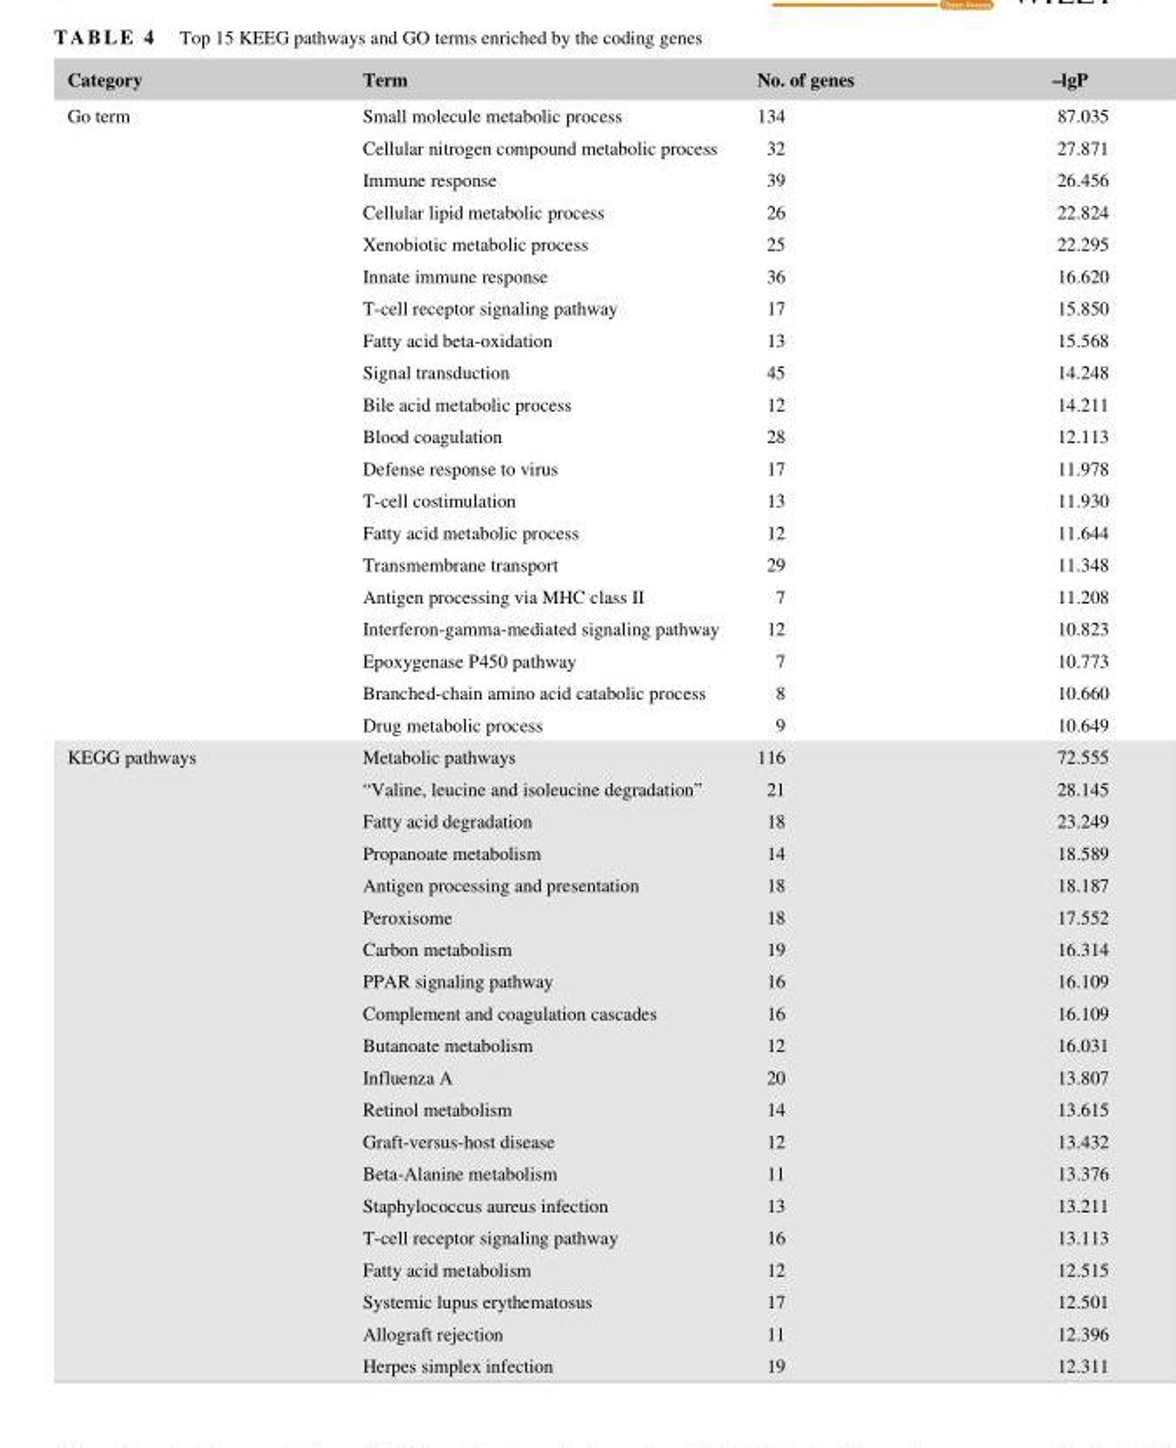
<table><thead><tr><td>Category</td><td>Term</td><td>No. of genes</td><td>– lgP</td></tr></thead><tbody><tr><td rowspan="20">Go term</td><td>Small molecule metabolic process</td><td>134</td><td>87.035</td></tr><tr><td>Cellular nitrogen compound metabolic process</td><td>32</td><td>27.871</td></tr><tr><td>Immune response</td><td>39</td><td>26.456</td></tr><tr><td>Cellular lipid metabolic process</td><td>26</td><td>22.824</td></tr><tr><td>Xenobiotic metabolic process</td><td>25</td><td>22.295</td></tr><tr><td>Innate immune response</td><td>36</td><td>16.620</td></tr><tr><td>T- cell receptor signaling pathway</td><td>17</td><td>15.850</td></tr><tr><td>Fatty acid beta- oxidation</td><td>13</td><td>15.568</td></tr><tr><td>Signal transduction</td><td>45</td><td>14.248</td></tr><tr><td>Bile acid metabolic process</td><td>12</td><td>14.211</td></tr><tr><td>Blood coagulation</td><td>28</td><td>12.113</td></tr><tr><td>Defense response to virus</td><td>17</td><td>11.978</td></tr><tr><td>T- cell costimulation</td><td>13</td><td>11.930</td></tr><tr><td>Fatty acid metabolic process</td><td>12</td><td>11.644</td></tr><tr><td>Transmembrane transport</td><td>29</td><td>11.348</td></tr><tr><td>Antigen processing via MHC class II</td><td>7</td><td>11.208</td></tr><tr><td>Interferon- gamma- mediated signaling pathway</td><td>12</td><td>10.823</td></tr><tr><td>Epoxygenase P450 pathway</td><td>7</td><td>10.773</td></tr><tr><td>Branched- chain amino acid catabolic process</td><td>8</td><td>10.660</td></tr><tr><td>Drug metabolic process</td><td>9</td><td>10.649</td></tr><tr><td rowspan="20">KEGG pathways</td><td>Metabolic pathways</td><td>116</td><td>72.555</td></tr><tr><td>“Valine, leucine and isoleucine degradation”</td><td>21</td><td>28.145</td></tr><tr><td>Fatty acid degradation</td><td>18</td><td>23.249</td></tr><tr><td>Propanoate metabolism</td><td>14</td><td>18.589</td></tr><tr><td>Antigen processing and presentation</td><td>18</td><td>18.187</td></tr><tr><td>Peroxisome</td><td>18</td><td>17.552</td></tr><tr><td>Carbon metabolism</td><td>19</td><td>16.314</td></tr><tr><td>PPAR signaling pathway</td><td>16</td><td>16.109</td></tr><tr><td>Complement and coagulation cascades</td><td>16</td><td>16.109</td></tr><tr><td>Butanoate metabolism</td><td>12</td><td>16.031</td></tr><tr><td>Influenza A</td><td>20</td><td>13.807</td></tr><tr><td>Retinol metabolism</td><td>14</td><td>13.615</td></tr><tr><td>Graft- versus- host disease</td><td>12</td><td>13.432</td></tr><tr><td>Beta- Alanine metabolism</td><td>11</td><td>13.376</td></tr><tr><td>Staphylococcus aureus infection</td><td>13</td><td>13.211</td></tr><tr><td>T- cell receptor signaling pathway</td><td>16</td><td>13.113</td></tr><tr><td>Fatty acid metabolism</td><td>12</td><td>12.515</td></tr><tr><td>Systemic lupus erythematosus</td><td>17</td><td>12.501</td></tr><tr><td>Allograft rejection</td><td>11</td><td>12.396</td></tr><tr><td>Herpes simplex infection</td><td>19</td><td>12.311</td></tr></tbody></table>